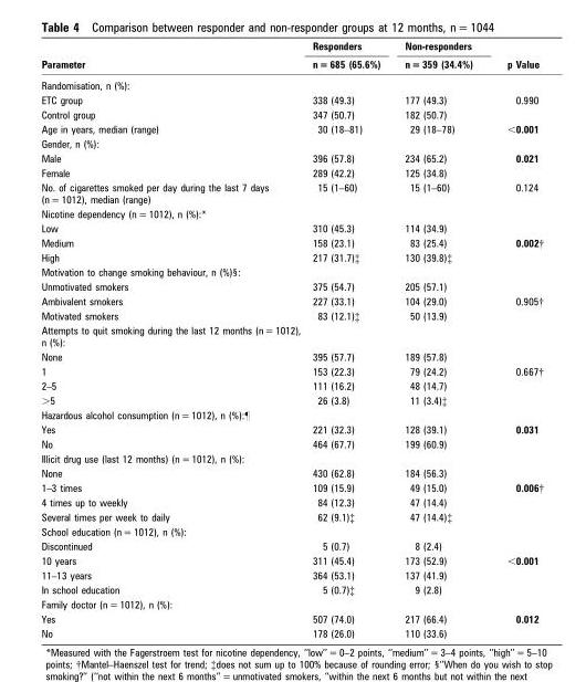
<table><thead><tr><td rowspan="2">Parameter</td><td rowspan="2">Responders n = 685 (65.6%)</td><td rowspan="2">Non-responders n = 359 (34.4%)</td><td rowspan="2">p Value</td></tr><tr></tr></thead><tbody><tr><td colspan="4">Randomisation, n (%):</td></tr><tr><td>ETC group</td><td>338 (49.3)</td><td>177 (49.3)</td><td>0.990</td></tr><tr><td>Control group</td><td>347 (50.7)</td><td>182 (50.7)</td><td></td></tr><tr><td>Age in years, median (range)</td><td>30 (18–81)</td><td>29 (18–78)</td><td>&lt;0.001</td></tr><tr><td colspan="4">Gender, n (%):</td></tr><tr><td>Male</td><td>396 (57.8)</td><td>234 (65.2)</td><td>0.021</td></tr><tr><td>Female</td><td>289 (42.2)</td><td>125 (34.8)</td><td></td></tr><tr><td>No. of cigarettes smoked per day during the last 7 days (n = 1012), median (range)</td><td>15 (1–60)</td><td>15 (1–60)</td><td>0.124</td></tr><tr><td colspan="4">Nicotine dependency (n = 1012), n (%):*</td></tr><tr><td>Low</td><td>310 (45.3)</td><td>114 (34.9)</td><td></td></tr><tr><td>Medium</td><td>158 (23.1)</td><td>83 (25.4)</td><td>0.002†</td></tr><tr><td>High</td><td>217 (31.7)‡</td><td>130 (39.8)‡</td><td></td></tr><tr><td colspan="4">Motivation to change smoking behaviour, n (%)§:</td></tr><tr><td>Unmotivated smokers</td><td>375 (54.7)</td><td>205 (57.1)</td><td></td></tr><tr><td>Ambivalent smokers</td><td>227 (33.1)</td><td>104 (29.0)</td><td>0.905†</td></tr><tr><td>Motivated smokers</td><td>83 (12.1)‡</td><td>50 (13.9)</td><td></td></tr><tr><td colspan="4">Attempts to quit smoking during the last 12 months (n = 1012), n (%):</td></tr><tr><td>None</td><td>395 (57.7)</td><td>189 (57.8)</td><td></td></tr><tr><td>1</td><td>153 (22.3)</td><td>79 (24.2)</td><td>0.667†</td></tr><tr><td>2–5</td><td>111 (16.2)</td><td>48 (14.7)</td><td></td></tr><tr><td>&gt;5</td><td>26 (3.8)</td><td>11 (3.4)‡</td><td></td></tr><tr><td colspan="4">Hazardous alcohol consumption (n = 1012), n (%):¶</td></tr><tr><td>Yes</td><td>221 (32.3)</td><td>128 (39.1)</td><td>0.031</td></tr><tr><td>No</td><td>464 (67.7)</td><td>199 (60.9)</td><td></td></tr><tr><td colspan="4">Illicit drug use (last 12 months) (n = 1012), n (%):</td></tr><tr><td>None</td><td>430 (62.8)</td><td>184 (56.3)</td><td></td></tr><tr><td>1–3 times</td><td>109 (15.9)</td><td>49 (15.0)</td><td>0.006†</td></tr><tr><td>4 times up to weekly</td><td>84 (12.3)</td><td>47 (14.4)</td><td></td></tr><tr><td>Several times per week to daily</td><td>62 (9.1)‡</td><td>47 (14.4)‡</td><td></td></tr><tr><td colspan="4">School education (n = 1012), n (%):</td></tr><tr><td>Discontinued</td><td>5 (0.7)</td><td>8 (2.4)</td><td></td></tr><tr><td>10 years</td><td>311 (45.4)</td><td>173 (52.9)</td><td>&lt;0.001</td></tr><tr><td>11–13 years</td><td>364 (53.1)</td><td>137 (41.9)</td><td></td></tr><tr><td>In school education</td><td>5 (0.7)‡</td><td>9 (2.8)</td><td></td></tr><tr><td colspan="4">Family doctor (n = 1012), n (%):</td></tr><tr><td>Yes</td><td>507 (74.0)</td><td>217 (66.4)</td><td>0.012</td></tr><tr><td>No</td><td>178 (26.0)</td><td>110 (33.6)</td><td></td></tr></tbody></table>